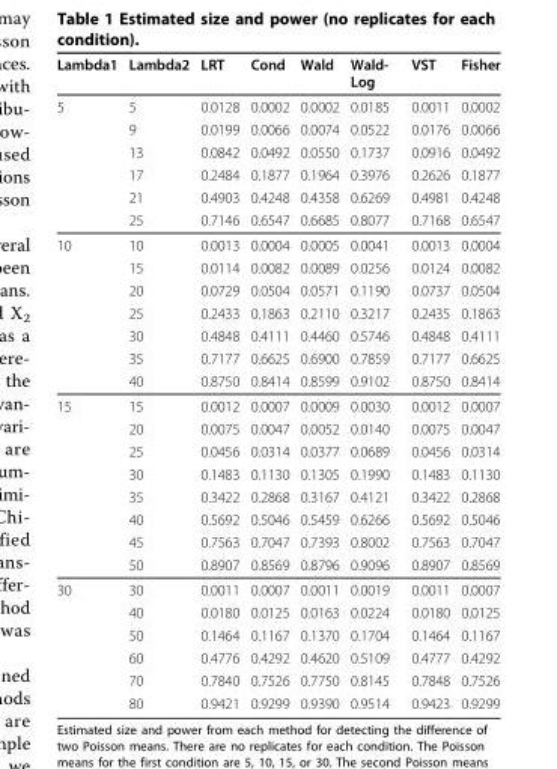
<table><thead><tr><td>Lambda1</td><td>Lambda2</td><td>LRT</td><td>Cond</td><td>Wald</td><td>Wald- Log</td><td>VST</td><td>Fisher</td></tr></thead><tbody><tr><td rowspan="6">5</td><td>5</td><td>0.0128</td><td>0.0002</td><td>0.0002</td><td>0.0185</td><td>0.0011</td><td>0.0002</td></tr><tr><td>9</td><td>0.0199</td><td>0.0066</td><td>0.0074</td><td>0.0522</td><td>0.0176</td><td>0.0066</td></tr><tr><td>13</td><td>0.0842</td><td>0.0492</td><td>0.0550</td><td>0.1737</td><td>0.0916</td><td>0.0492</td></tr><tr><td>17</td><td>0.2484</td><td>0.1877</td><td>0.1964</td><td>0.3976</td><td>0.2626</td><td>0.1877</td></tr><tr><td>21</td><td>0.4903</td><td>0.4248</td><td>0.4358</td><td>0.6269</td><td>0.4981</td><td>0.4248</td></tr><tr><td>25</td><td>0.7146</td><td>0.6547</td><td>0.6685</td><td>0.8077</td><td>0.7168</td><td>0.6547</td></tr><tr><td rowspan="7">10</td><td>10</td><td>0.0013</td><td>0.0004</td><td>0.0005</td><td>0.0041</td><td>0.0013</td><td>0.0004</td></tr><tr><td>15</td><td>0.0114</td><td>0.0082</td><td>0.0089</td><td>0.0256</td><td>0.0124</td><td>0.0082</td></tr><tr><td>20</td><td>0.0729</td><td>0.0504</td><td>0.0571</td><td>0.1190</td><td>0.0737</td><td>0.0504</td></tr><tr><td>25</td><td>0.2433</td><td>0.1863</td><td>0.2110</td><td>0.3217</td><td>0.2435</td><td>0.1863</td></tr><tr><td>30</td><td>0.4848</td><td>0.4111</td><td>0.4460</td><td>0.5746</td><td>0.4848</td><td>0.4111</td></tr><tr><td>35</td><td>0.7177</td><td>0.6625</td><td>0.6900</td><td>0.7859</td><td>0.7177</td><td>0.6625</td></tr><tr><td>40</td><td>0.8750</td><td>0.8414</td><td>0.8599</td><td>0.9102</td><td>0.8750</td><td>0.8414</td></tr><tr><td rowspan="8">15</td><td>15</td><td>0.0012</td><td>0.0007</td><td>0.0009</td><td>0.0030</td><td>0.0012</td><td>0.0007</td></tr><tr><td>20</td><td>0.0075</td><td>0.0047</td><td>0.0052</td><td>0.0140</td><td>0.0075</td><td>0.0047</td></tr><tr><td>25</td><td>0.0456</td><td>0.0314</td><td>0.0377</td><td>0.0689</td><td>0.0456</td><td>0.0314</td></tr><tr><td>30</td><td>0.1483</td><td>0.1130</td><td>0.1305</td><td>0.1990</td><td>0.1483</td><td>0.1130</td></tr><tr><td>35</td><td>0.3422</td><td>0.2868</td><td>0.3167</td><td>0.4121</td><td>0.3422</td><td>0.2868</td></tr><tr><td>40</td><td>0.5692</td><td>0.5046</td><td>0.5459</td><td>0.6266</td><td>0.5692</td><td>0.5046</td></tr><tr><td>45</td><td>0.7563</td><td>0.7047</td><td>0.7393</td><td>0.8002</td><td>0.7563</td><td>0.7047</td></tr><tr><td>50</td><td>0.8907</td><td>0.8569</td><td>0.8796</td><td>0.9096</td><td>0.8907</td><td>0.8569</td></tr><tr><td rowspan="6">30</td><td>30</td><td>0.0011</td><td>0.0007</td><td>0.0011</td><td>0.0019</td><td>0.0011</td><td>0.0007</td></tr><tr><td>40</td><td>0.0180</td><td>0.0125</td><td>0.0163</td><td>0.0224</td><td>0.0180</td><td>0.0125</td></tr><tr><td>50</td><td>0.1464</td><td>0.1167</td><td>0.1370</td><td>0.1704</td><td>0.1464</td><td>0.1167</td></tr><tr><td>60</td><td>0.4776</td><td>0.4292</td><td>0.4620</td><td>0.5109</td><td>0.4777</td><td>0.4292</td></tr><tr><td>70</td><td>0.7840</td><td>0.7526</td><td>0.7750</td><td>0.8145</td><td>0.7848</td><td>0.7526</td></tr><tr><td>80</td><td>0.9421</td><td>0.9299</td><td>0.9390</td><td>0.9514</td><td>0.9423</td><td>0.9299</td></tr></tbody></table>